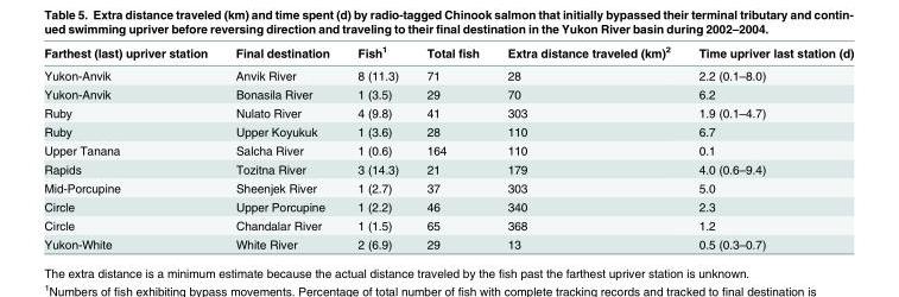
<table><thead><tr><td>Farthest (last) upriver station</td><td>Final destination</td><td>Fish<sup>1</sup></td><td>Total fish</td><td>Extra distance traveled (km)<sup>2</sup></td><td>Time upriver last station (d)</td></tr></thead><tbody><tr><td>Yukon-Anvik</td><td>Anvik River</td><td>8 (11.3)</td><td>71</td><td>28</td><td>2.2 (0.1–8.0)</td></tr><tr><td>Yukon-Anvik</td><td>Bonasila River</td><td>1 (3.5)</td><td>29</td><td>70</td><td>6.2</td></tr><tr><td>Ruby</td><td>Nulato River</td><td>4 (9.8)</td><td>41</td><td>303</td><td>1.9 (0.1–4.7)</td></tr><tr><td>Ruby</td><td>Upper Koyukuk</td><td>1 (3.6)</td><td>28</td><td>110</td><td>6.7</td></tr><tr><td>Upper Tanana</td><td>Salcha River</td><td>1 (0.6)</td><td>164</td><td>110</td><td>0.1</td></tr><tr><td>Rapids</td><td>Tozitna River</td><td>3 (14.3)</td><td>21</td><td>179</td><td>4.0 (0.6–9.4)</td></tr><tr><td>Mid-Porcupine</td><td>Sheenjek River</td><td>1 (2.7)</td><td>37</td><td>303</td><td>5.0</td></tr><tr><td>Circle</td><td>Upper Porcupine</td><td>1 (2.2)</td><td>46</td><td>340</td><td>2.3</td></tr><tr><td>Circle</td><td>Chandalar River</td><td>1 (1.5)</td><td>65</td><td>368</td><td>1.2</td></tr><tr><td>Yukon-White</td><td>White River</td><td>2 (6.9)</td><td>29</td><td>13</td><td>0.5 (0.3–0.7)</td></tr></tbody></table>